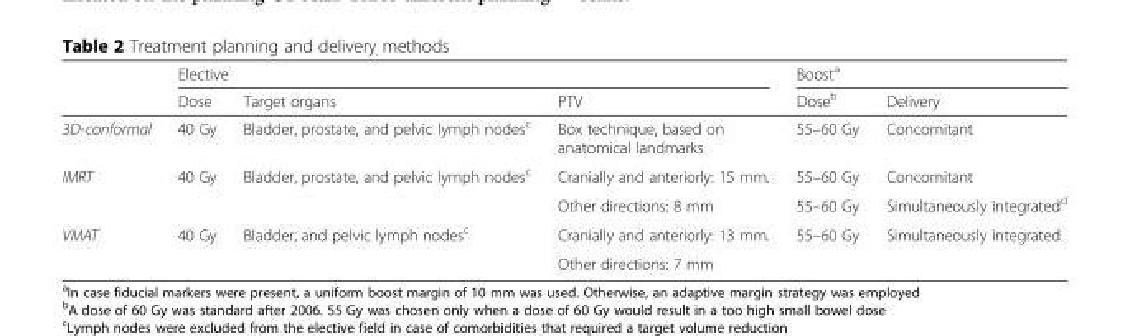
<table><thead><tr><td rowspan="2"></td><td colspan="3">Elective</td><td colspan="2">Boost<sup>a</sup></td></tr><tr><td>Dose</td><td>Target organs</td><td>PTV</td><td>Dose<sup>b</sup></td><td>Delivery</td></tr></thead><tbody><tr><td>3D-conformal</td><td>40 Gy</td><td>Bladder, prostate, and pelvic lymph nodes<sup>c</sup></td><td>Box technique, based on anatomical landmarks</td><td>55–60 Gy</td><td>Concomitant</td></tr><tr><td rowspan="2">IMRT</td><td rowspan="2">40 Gy</td><td rowspan="2">Bladder, prostate, and pelvic lymph nodes<sup>c</sup></td><td>Cranially and anteriorly: 15 mm.</td><td>55–60 Gy</td><td>Concomitant</td></tr><tr><td>Other directions: 8 mm</td><td>55–60 Gy</td><td>Simultaneously integrated<sup>d</sup></td></tr><tr><td rowspan="2">VMAT</td><td rowspan="2">40 Gy</td><td rowspan="2">Bladder, and pelvic lymph nodes<sup>c</sup></td><td>Cranially and anteriorly: 13 mm.</td><td rowspan="2">55–60 Gy</td><td rowspan="2">Simultaneously integrated</td></tr><tr><td>Other directions: 7 mm</td></tr></tbody></table>